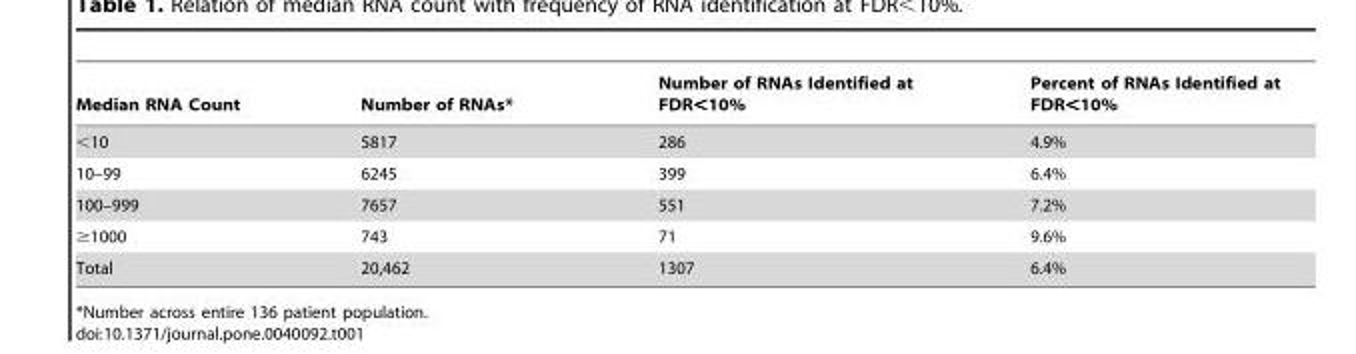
<table><thead><tr><td>Median RNA Count</td><td>Number of RNAs*</td><td>Number of RNAs Identified at FDR&lt;10%</td><td>Percent of RNAs Identified at FDR&lt;10%</td></tr></thead><tbody><tr><td>&lt;10</td><td>5817</td><td>286</td><td>4.9%</td></tr><tr><td>10–99</td><td>6245</td><td>399</td><td>6.4%</td></tr><tr><td>100–999</td><td>7657</td><td>551</td><td>7.2%</td></tr><tr><td>≥1000</td><td>743</td><td>71</td><td>9.6%</td></tr><tr><td>Total</td><td>20,462</td><td>1307</td><td>6.4%</td></tr></tbody></table>